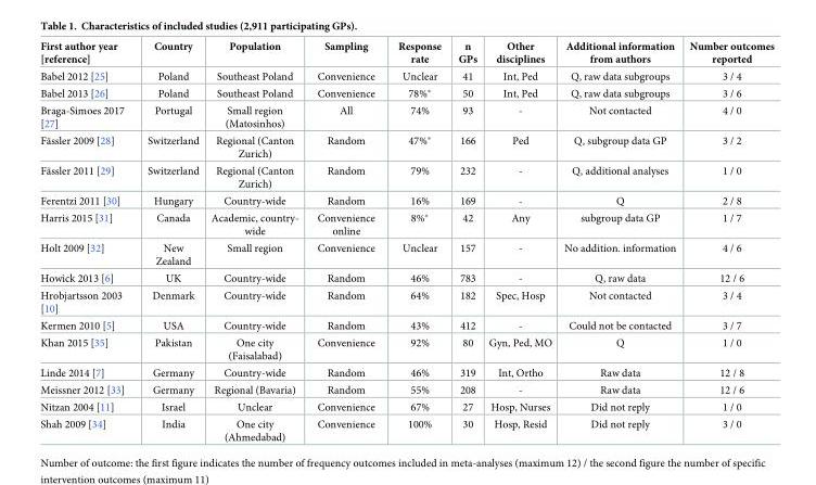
<table><thead><tr><td>First author year [reference]</td><td>Country</td><td>Population</td><td>Sampling</td><td>Response rate</td><td>n GPs</td><td>Other disciplines</td><td>Additional information from authors</td><td>Number outcomes reported</td></tr></thead><tbody><tr><td>Babel 2012 [25]</td><td>Poland</td><td>Southeast Poland</td><td>Convenience</td><td>Unclear</td><td>41</td><td>Int, Ped</td><td>Q, raw data subgroups</td><td>3 / 4</td></tr><tr><td>Babel 2013 [26]</td><td>Poland</td><td>Southeast Poland</td><td>Convenience</td><td>78%*</td><td>50</td><td>Int, Ped</td><td>Q, raw data subgroups</td><td>3 / 6</td></tr><tr><td>Braga-Simoes 2017 [27]</td><td>Portugal</td><td>Small region (Matosinhos)</td><td>All</td><td>74%</td><td>93</td><td>-</td><td>Not contacted</td><td>4 / 0</td></tr><tr><td>Fa¨ssler 2009 [28]</td><td>Switzerland</td><td>Regional (Canton Zurich)</td><td>Random</td><td>47%*</td><td>166</td><td>Ped</td><td>Q, subgroup data GP</td><td>3 / 2</td></tr><tr><td>Fa¨ssler 2011 [29]</td><td>Switzerland</td><td>Regional (Canton Zurich)</td><td>Random</td><td>79%</td><td>232</td><td>-</td><td>Q, additional analyses</td><td>1 / 0</td></tr><tr><td>Ferentzi 2011 [30]</td><td>Hungary</td><td>Country-wide</td><td>Random</td><td>16%</td><td>169</td><td>-</td><td>Q</td><td>2 / 8</td></tr><tr><td>Harris 2015 [31]</td><td>Canada</td><td>Academic, country- wide</td><td>Convenience online</td><td>8%*</td><td>42</td><td>Any</td><td>subgroup data GP</td><td>1 / 7</td></tr><tr><td>Holt 2009 [32]</td><td>New Zealand</td><td>Small region</td><td>Convenience</td><td>Unclear</td><td>157</td><td>-</td><td>No addition. information</td><td>4 / 6</td></tr><tr><td>Howick 2013 [6]</td><td>UK</td><td>Country-wide</td><td>Random</td><td>46%</td><td>783</td><td>-</td><td>Q, raw data</td><td>12 / 6</td></tr><tr><td>Hrobjartsson 2003 [10]</td><td>Denmark</td><td>Country-wide</td><td>Random</td><td>64%</td><td>182</td><td>Spec, Hosp</td><td>Not contacted</td><td>3 / 4</td></tr><tr><td>Kermen 2010 [5]</td><td>USA</td><td>Country-wide</td><td>Random</td><td>43%</td><td>412</td><td>-</td><td>Could not be contacted</td><td>3 / 7</td></tr><tr><td>Khan 2015 [35]</td><td>Pakistan</td><td>One city (Faisalabad)</td><td>Convenience</td><td>92%</td><td>80</td><td>Gyn, Ped, MO</td><td>Q</td><td>1 / 0</td></tr><tr><td>Linde 2014 [7]</td><td>Germany</td><td>Country-wide</td><td>Random</td><td>46%</td><td>319</td><td>Int, Ortho</td><td>Raw data</td><td>12 / 8</td></tr><tr><td>Meissner 2012 [33]</td><td>Germany</td><td>Regional (Bavaria)</td><td>Random</td><td>55%</td><td>208</td><td>-</td><td>Raw data</td><td>12 / 6</td></tr><tr><td>Nitzan 2004 [11]</td><td>Israel</td><td>Unclear</td><td>Convenience</td><td>67%</td><td>27</td><td>Hosp, Nurses</td><td>Did not reply</td><td>1 / 0</td></tr><tr><td>Shah 2009 [34]</td><td>India</td><td>One city (Ahmedabad)</td><td>Convenience</td><td>100%</td><td>30</td><td>Hosp, Resid</td><td>Did not reply</td><td>3 / 0</td></tr></tbody></table>